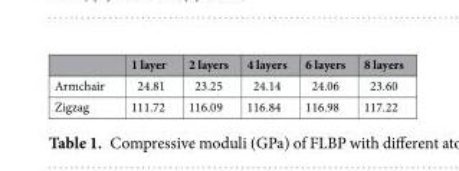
<table><thead><tr><td></td><td>1 layer</td><td>2 layers</td><td>4 layers</td><td>6 layers</td><td>8 layers</td></tr></thead><tbody><tr><td>Armchair</td><td>24.81</td><td>23.25</td><td>24.14</td><td>24.06</td><td>23.60</td></tr><tr><td>Zigzag</td><td>111.72</td><td>116.09</td><td>116.84</td><td>116.98</td><td>117.22</td></tr></tbody></table>